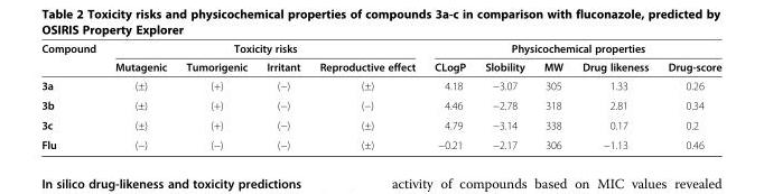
<table><thead><tr><td rowspan="2">Compound</td><td colspan="4">Toxicity risks</td><td colspan="5">Physicochemical properties</td></tr><tr><td>Mutagenic</td><td>Tumorigenic</td><td>Irritant</td><td>Reproductive effect</td><td>CLogP</td><td>Slobility</td><td>MW</td><td>Drug likeness</td><td>Drug-score</td></tr></thead><tbody><tr><td>3a</td><td>(±)</td><td>(+)</td><td>(−)</td><td>(±)</td><td>4.18</td><td>−3.07</td><td>305</td><td>1.33</td><td>0.26</td></tr><tr><td>3b</td><td>(±)</td><td>(+)</td><td>(−)</td><td>(−)</td><td>4.46</td><td>−2.78</td><td>318</td><td>2.81</td><td>0.34</td></tr><tr><td>3c</td><td>(±)</td><td>(+)</td><td>(−)</td><td>(±)</td><td>4.79</td><td>−3.14</td><td>338</td><td>0.17</td><td>0.2</td></tr><tr><td>Flu</td><td>(−)</td><td>(−)</td><td>(−)</td><td>(±)</td><td>−0.21</td><td>−2.17</td><td>306</td><td>−1.13</td><td>0.46</td></tr></tbody></table>